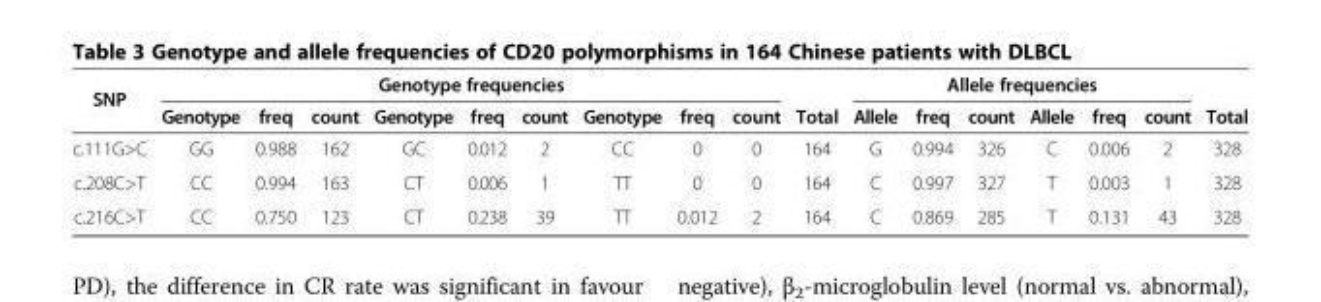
<table><thead><tr><td rowspan="2">SNP</td><td colspan="9">Genotype frequencies</td><td rowspan="2">Total</td><td colspan="6">Allele frequencies</td><td rowspan="2">Total</td></tr><tr><td>Genotype</td><td>freq</td><td>count</td><td>Genotype</td><td>freq</td><td>count</td><td>Genotype</td><td>freq</td><td>count</td><td>Allele</td><td>freq</td><td>count</td><td>Allele</td><td>freq</td><td>count</td></tr></thead><tbody><tr><td>c.111G&gt;C</td><td>GG</td><td>0.988</td><td>162</td><td>GC</td><td>0.012</td><td>2</td><td>CC</td><td>0</td><td>0</td><td>164</td><td>G</td><td>0.994</td><td>326</td><td>C</td><td>0.006</td><td>2</td><td>328</td></tr><tr><td>c.208C&gt;T</td><td>CC</td><td>0.994</td><td>163</td><td>CT</td><td>0.006</td><td>1</td><td>TT</td><td>0</td><td>0</td><td>164</td><td>C</td><td>0.997</td><td>327</td><td>T</td><td>0.003</td><td>1</td><td>328</td></tr><tr><td>c.216C&gt;T</td><td>CC</td><td>0.750</td><td>123</td><td>CT</td><td>0.238</td><td>39</td><td>TT</td><td>0.012</td><td>2</td><td>164</td><td>C</td><td>0.869</td><td>285</td><td>T</td><td>0.131</td><td>43</td><td>328</td></tr></tbody></table>